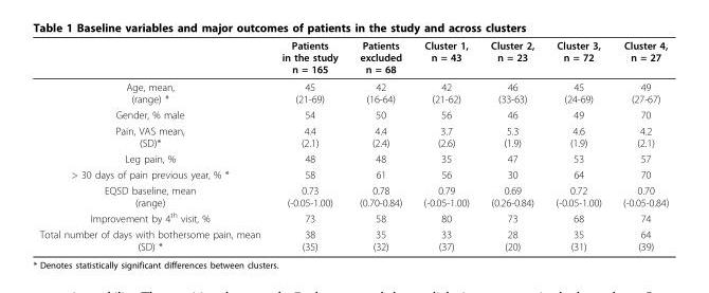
<table><thead><tr><td></td><td>Patients in the study n = 165</td><td>Patients excluded n = 68</td><td>Cluster 1, n = 43</td><td>Cluster 2, n = 23</td><td>Cluster 3, n = 72</td><td>Cluster 4, n = 27</td></tr></thead><tbody><tr><td>Age, mean, (range) *</td><td>45 (21-69)</td><td>42 (16-64)</td><td>42 (21-62)</td><td>46 (33-63)</td><td>45 (24-69)</td><td>49 (27-67)</td></tr><tr><td>Gender, % male</td><td>54</td><td>50</td><td>56</td><td>46</td><td>49</td><td>70</td></tr><tr><td>Pain, VAS mean, (SD)*</td><td>4.4 (2.1)</td><td>4.4 (2.4)</td><td>3.7 (2.6)</td><td>5.3 (1.9)</td><td>4.6 (1.9)</td><td>4.2 (2.1)</td></tr><tr><td>Leg pain, %</td><td>48</td><td>48</td><td>35</td><td>47</td><td>53</td><td>57</td></tr><tr><td>&gt; 30 days of pain previous year, % *</td><td>58</td><td>61</td><td>56</td><td>30</td><td>64</td><td>70</td></tr><tr><td>EQ5D baseline, mean (range)</td><td>0.73 (-0.05-1.00)</td><td>0.78 (0.70-0.84)</td><td>0.79 (-0.05-1.00)</td><td>0.69 (0.26-0.84)</td><td>0.72 (-0.05-1.00)</td><td>0.70 (-0.05-0.84)</td></tr><tr><td>Improvement by 4<sup>th</sup> visit, %</td><td>73</td><td>58</td><td>80</td><td>73</td><td>68</td><td>74</td></tr><tr><td>Total number of days with bothersome pain, mean (SD) *</td><td>38 (35)</td><td>35 (32)</td><td>33 (37)</td><td>28 (20)</td><td>35 (31)</td><td>64 (39)</td></tr></tbody></table>